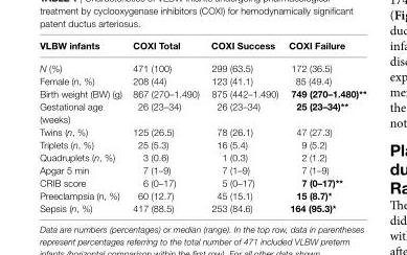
<table><thead><tr><td>VlBW infants</td><td>cOXi Total</td><td>cOXi success</td><td>cOXi Failure</td></tr></thead><tbody><tr><td>N (%)</td><td>471 (100)</td><td>299 (63.5)</td><td>172 (36.5)</td></tr><tr><td>Female (n, %)</td><td>208 (44)</td><td>123 (41.1)</td><td>85 (49.4)</td></tr><tr><td>Birth weight (BW) (g)</td><td>867 (270–1.490)</td><td>875 (442–1.490)</td><td>749 (270–1.480)**</td></tr><tr><td>Gestational age (weeks)</td><td>26 (23–34)</td><td>26 (23–34)</td><td>25 (23–34)**</td></tr><tr><td>Twins (n, %)</td><td>125 (26.5)</td><td>78 (26.1)</td><td>47 (27.3)</td></tr><tr><td>Triplets (n, %)</td><td>25 (5.3)</td><td>16 (5.4)</td><td>9 (5.2)</td></tr><tr><td>Quadruplets (n, %)</td><td>3 (0.6)</td><td>1 (0.3)</td><td>2 (1.2)</td></tr><tr><td>Apgar 5 min</td><td>7 (1–9)</td><td>7 (1–9)</td><td>7 (1–9)</td></tr><tr><td>CRIB score</td><td>6 (0–17)</td><td>5 (0–17)</td><td>7 (0–17)**</td></tr><tr><td>Preeclampsia (n, %)</td><td>60 (12.7)</td><td>45 (15.1)</td><td>15 (8.7)*</td></tr><tr><td>Sepsis (n, %)</td><td>417 (88.5)</td><td>253 (84.6)</td><td>164 (95.3)*</td></tr></tbody></table>